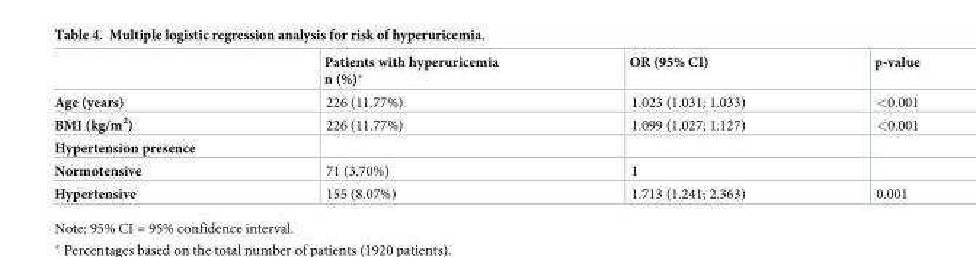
<table><thead><tr><td></td><td>Patients with hyperuricemia n (%)*</td><td>OR (95% CI)</td><td>p-value</td></tr></thead><tbody><tr><td>Age (years)</td><td>226 (11.77%)</td><td>1.023 (1.031; 1.033)</td><td>&lt;0.001</td></tr><tr><td>BMI (kg/m<sup>2</sup>)</td><td>226 (11.77%)</td><td>1.099 (1.027; 1.127)</td><td>&lt;0.001</td></tr><tr><td colspan="4">Hypertension presence</td></tr><tr><td>Normotensive</td><td>71 (3.70%)</td><td>1</td><td></td></tr><tr><td>Hypertensive</td><td>155 (8.07%)</td><td>1.713 (1.241; 2.363)</td><td>0.001</td></tr></tbody></table>